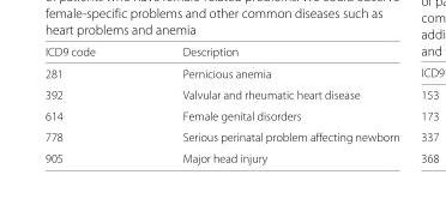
<table><thead><tr><td>ICD9 code</td><td>Description</td></tr></thead><tbody><tr><td>281</td><td>Pernicious anemia</td></tr><tr><td>392</td><td>Valvular and rheumatic heart disease</td></tr><tr><td>614</td><td>Female genital disorders</td></tr><tr><td>778</td><td>Serious perinatal problem affecting newborn</td></tr><tr><td>905</td><td>Major head injury</td></tr></tbody></table>